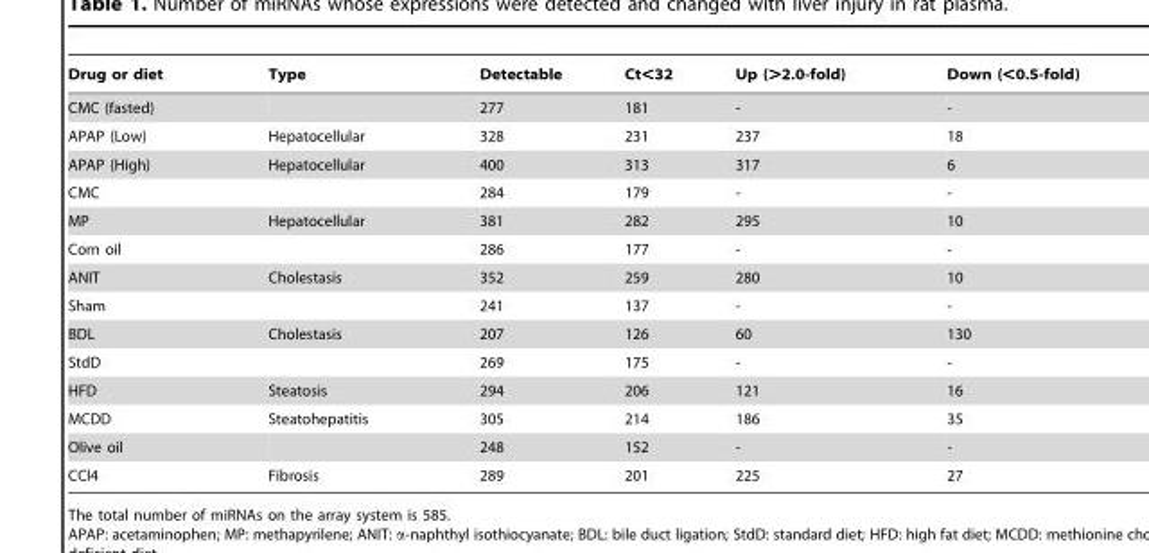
<table><thead><tr><td>Drug or diet</td><td>Type</td><td>Detectable</td><td>Ct&lt;32</td><td>Up (&gt;2.0-fold)</td><td>Down (&lt;0.5-fold)</td></tr></thead><tbody><tr><td>CMC (fasted)</td><td></td><td>277</td><td>181</td><td>-</td><td>-</td></tr><tr><td>APAP (Low)</td><td>Hepatocellular</td><td>328</td><td>231</td><td>237</td><td>18</td></tr><tr><td>APAP (High)</td><td>Hepatocellular</td><td>400</td><td>313</td><td>317</td><td>6</td></tr><tr><td>CMC</td><td></td><td>284</td><td>179</td><td>-</td><td>-</td></tr><tr><td>MP</td><td>Hepatocellular</td><td>381</td><td>282</td><td>295</td><td>10</td></tr><tr><td>Corn oil</td><td></td><td>286</td><td>177</td><td>-</td><td>-</td></tr><tr><td>ANIT</td><td>Cholestasis</td><td>352</td><td>259</td><td>280</td><td>10</td></tr><tr><td>Sham</td><td></td><td>241</td><td>137</td><td>-</td><td>-</td></tr><tr><td>BDL</td><td>Cholestasis</td><td>207</td><td>126</td><td>60</td><td>130</td></tr><tr><td>StdD</td><td></td><td>269</td><td>175</td><td>-</td><td>-</td></tr><tr><td>HFD</td><td>Steatosis</td><td>294</td><td>206</td><td>121</td><td>16</td></tr><tr><td>MCDD</td><td>Steatohepatitis</td><td>305</td><td>214</td><td>186</td><td>35</td></tr><tr><td>Olive oil</td><td></td><td>248</td><td>152</td><td>-</td><td>-</td></tr><tr><td>CCl4</td><td>Fibrosis</td><td>289</td><td>201</td><td>225</td><td>27</td></tr></tbody></table>